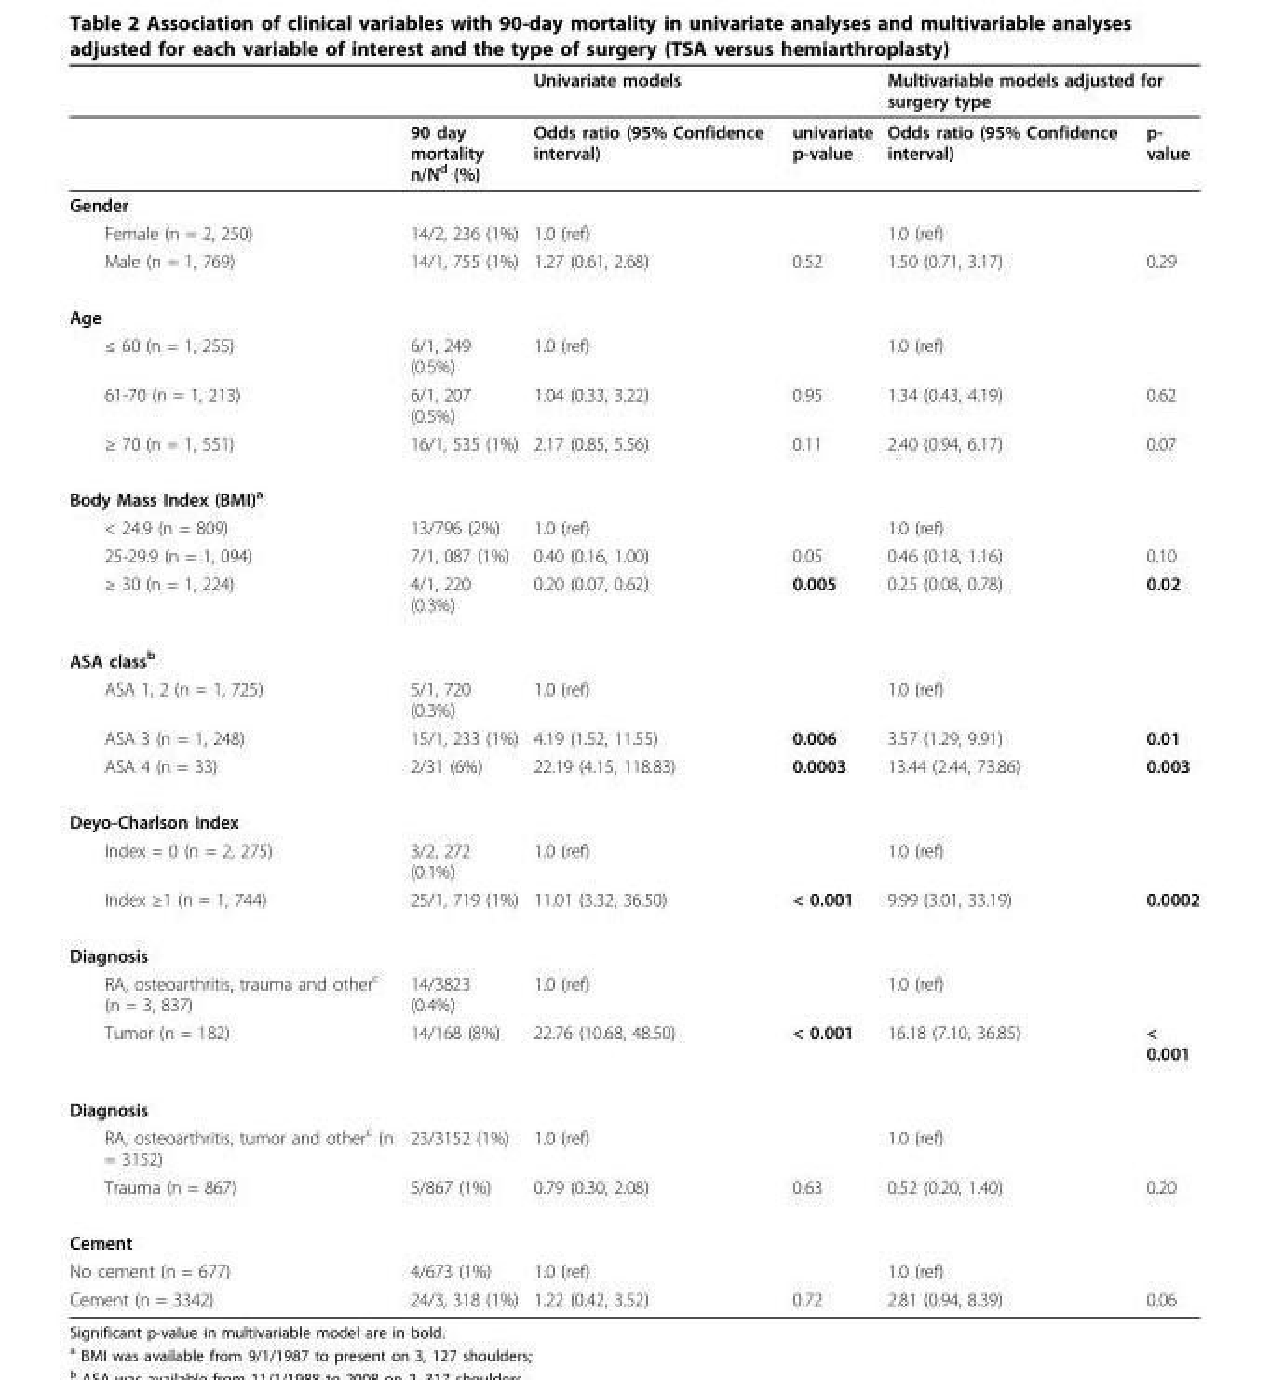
<table><thead><tr><td rowspan="2"></td><td rowspan="2">90 day mortality n/N<sup>d</sup> (%)</td><td colspan="2">Univariate models</td><td colspan="2">Multivariable models adjusted for surgery type</td></tr><tr><td>Odds ratio (95% Confidence interval)</td><td>univariate p-value</td><td>Odds ratio (95% Confidence interval)</td><td>p- value</td></tr></thead><tbody><tr><td colspan="6">Gender</td></tr><tr><td>Female (n = 2, 250)</td><td>14/2, 236 (1%)</td><td>1.0 (ref)</td><td></td><td>1.0 (ref)</td><td></td></tr><tr><td>Male (n = 1, 769)</td><td>14/1, 755 (1%)</td><td>1.27 (0.61, 2.68)</td><td>0.52</td><td>1.50 (0.71, 3.17)</td><td>0.29</td></tr><tr><td colspan="6">Age</td></tr><tr><td>≤ 60 (n = 1, 255)</td><td>6/1, 249 (0.5%)</td><td>1.0 (ref)</td><td></td><td>1.0 (ref)</td><td></td></tr><tr><td>61-70 (n = 1, 213)</td><td>6/1, 207 (0.5%)</td><td>1.04 (0.33, 3.22)</td><td>0.95</td><td>1.34 (0.43, 4.19)</td><td>0.62</td></tr><tr><td>≥ 70 (n = 1, 551)</td><td>16/1, 535 (1%)</td><td>2.17 (0.85, 5.56)</td><td>0.11</td><td>2.40 (0.94, 6.17)</td><td>0.07</td></tr><tr><td colspan="6">Body Mass Index (BMI)<sup>a</sup></td></tr><tr><td>&lt; 24.9 (n = 809)</td><td>13/796 (2%)</td><td>1.0 (ref)</td><td></td><td>1.0 (ref)</td><td></td></tr><tr><td>25-29.9 (n = 1, 094)</td><td>7/1, 087 (1%)</td><td>0.40 (0.16, 1.00)</td><td>0.05</td><td>0.46 (0.18, 1.16)</td><td>0.10</td></tr><tr><td>≥ 30 (n = 1, 224)</td><td>4/1, 220 (0.3%)</td><td>0.20 (0.07, 0.62)</td><td>0.005</td><td>0.25 (0.08, 0.78)</td><td>0.02</td></tr><tr><td colspan="6">ASA class<sup>b</sup></td></tr><tr><td>ASA 1, 2 (n = 1, 725)</td><td>5/1, 720 (0.3%)</td><td>1.0 (ref)</td><td></td><td>1.0 (ref)</td><td></td></tr><tr><td>ASA 3 (n = 1, 248)</td><td>15/1, 233 (1%)</td><td>4.19 (1.52, 11.55)</td><td>0.006</td><td>3.57 (1.29, 9.91)</td><td>0.01</td></tr><tr><td>ASA 4 (n = 33)</td><td>2/31 (6%)</td><td>22.19 (4.15, 118.83)</td><td>0.0003</td><td>13.44 (2.44, 73.86)</td><td>0.003</td></tr><tr><td colspan="6">Deyo-Charlson Index</td></tr><tr><td>Index = 0 (n = 2, 275)</td><td>3/2, 272 (0.1%)</td><td>1.0 (ref)</td><td></td><td>1.0 (ref)</td><td></td></tr><tr><td>Index ≥1 (n = 1, 744)</td><td>25/1, 719 (1%)</td><td>11.01 (3.32, 36.50)</td><td>&lt; 0.001</td><td>9.99 (3.01, 33.19)</td><td>0.0002</td></tr><tr><td colspan="6">Diagnosis</td></tr><tr><td>RA, osteoarthritis, trauma and other<sup>c</sup> (n = 3, 837)</td><td>14/3823 (0.4%)</td><td>1.0 (ref)</td><td></td><td>1.0 (ref)</td><td></td></tr><tr><td>Tumor (n = 182)</td><td>14/168 (8%)</td><td>22.76 (10.68, 48.50)</td><td>&lt; 0.001</td><td>16.18 (7.10, 36.85)</td><td>&lt; 0.001</td></tr><tr><td colspan="6">Diagnosis</td></tr><tr><td>RA, osteoarthritis, tumor and other<sup>c</sup> (n = 3152)</td><td>23/3152 (1%)</td><td>1.0 (ref)</td><td></td><td>1.0 (ref)</td><td></td></tr><tr><td>Trauma (n = 867)</td><td>5/867 (1%)</td><td>0.79 (0.30, 2.08)</td><td>0.63</td><td>0.52 (0.20, 1.40)</td><td>0.20</td></tr><tr><td colspan="6">Cement</td></tr><tr><td>No cement (n = 677)</td><td>4/673 (1%)</td><td>1.0 (ref)</td><td></td><td>1.0 (ref)</td><td></td></tr><tr><td>Cement (n = 3342)</td><td>24/3, 318 (1%)</td><td>1.22 (0.42, 3.52)</td><td>0.72</td><td>2.81 (0.94, 8.39)</td><td>0.06</td></tr></tbody></table>